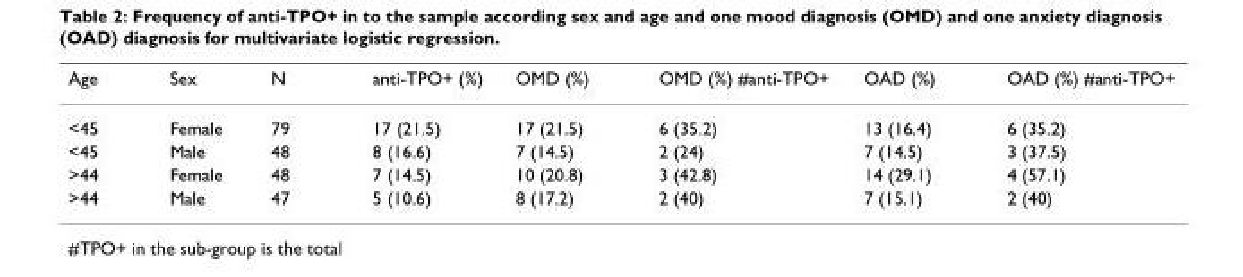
<table><thead><tr><td>Age</td><td>Sex</td><td>N</td><td>anti-TPO+ (%)</td><td>OMD (%)</td><td>OMD (%) #anti-TPO+</td><td>OAD (%)</td><td>OAD (%) #anti-TPO+</td></tr></thead><tbody><tr><td>&lt;45</td><td>Female</td><td>79</td><td>17 (21.5)</td><td>17 (21.5)</td><td>6 (35.2)</td><td>13 (16.4)</td><td>6 (35.2)</td></tr><tr><td>&lt;45</td><td>Male</td><td>48</td><td>8 (16.6)</td><td>7 (14.5)</td><td>2 (24)</td><td>7 (14.5)</td><td>3 (37.5)</td></tr><tr><td>&gt;44</td><td>Female</td><td>48</td><td>7 (14.5)</td><td>10 (20.8)</td><td>3 (42.8)</td><td>14 (29.1)</td><td>4 (57.1)</td></tr><tr><td>&gt;44</td><td>Male</td><td>47</td><td>5 (10.6)</td><td>8 (17.2)</td><td>2 (40)</td><td>7 (15.1)</td><td>2 (40)</td></tr></tbody></table>